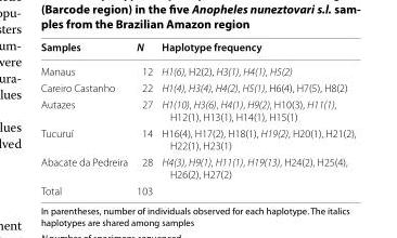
<table><thead><tr><td>Samples</td><td>N</td><td>Haplotype frequency</td></tr></thead><tbody><tr><td>Manaus</td><td>12</td><td>H1(6), H2(2), H3(1), H4(1), H5(2)</td></tr><tr><td>Careiro Castanho</td><td>22</td><td>H1(4), H3(4), H4(2), H5(1), H6(4), H7(5), H8(2)</td></tr><tr><td>Autazes</td><td>27</td><td>H1(10), H3(6), H4(1), H9(2), H10(3), H11(1), H12(1), H13(1), H14(1), H15(1)</td></tr><tr><td>Tucuruí</td><td>14</td><td>H16(4), H17(2), H18(1), H19(2), H20(1), H21(2), H22(1), H23(1)</td></tr><tr><td>Abacate da Pedreira</td><td>28</td><td>H4(3), H9(1), H11(1), H19(13), H24(2), H25(4), H26(2), H27(2)</td></tr><tr><td>Total</td><td>103</td><td></td></tr></tbody></table>